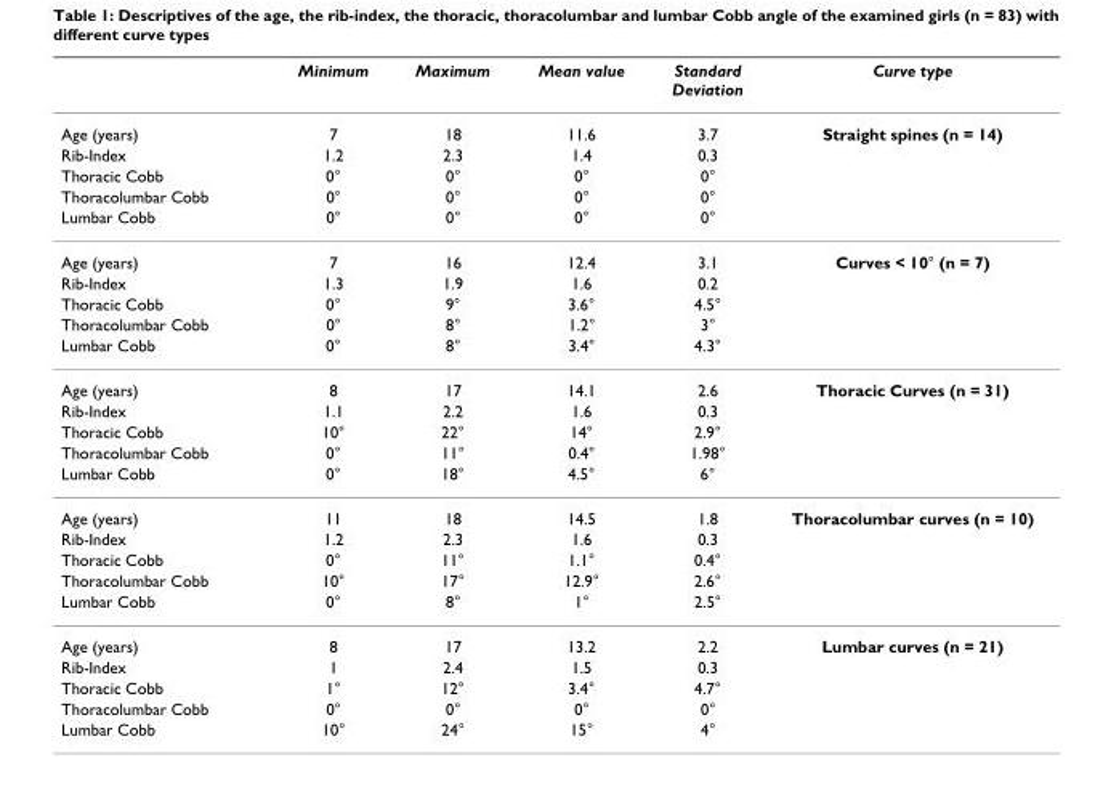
<table><thead><tr><td></td><td>Minimum</td><td>Maximum</td><td>Mean value</td><td>Standard Deviation</td><td>Curve type</td></tr></thead><tbody><tr><td>Age (years)</td><td>7</td><td>18</td><td>11.6</td><td>3.7</td><td>Straight spines (n = 14)</td></tr><tr><td>Rib-Index</td><td>1.2</td><td>2.3</td><td>1.4</td><td>0.3</td><td></td></tr><tr><td>Thoracic Cobb</td><td>0°</td><td>0°</td><td>0°</td><td>0°</td><td></td></tr><tr><td>Thoracolumbar Cobb</td><td>0°</td><td>0°</td><td>0°</td><td>0°</td><td></td></tr><tr><td>Lumbar Cobb</td><td>0°</td><td>0°</td><td>0°</td><td>0°</td><td></td></tr><tr><td>Age (years)</td><td>7</td><td>16</td><td>12.4</td><td>3.1</td><td>Curves &lt; 10° (n = 7)</td></tr><tr><td>Rib-Index</td><td>1.3</td><td>1.9</td><td>1.6</td><td>0.2</td><td></td></tr><tr><td>Thoracic Cobb</td><td>0°</td><td>9°</td><td>3.6°</td><td>4.5°</td><td></td></tr><tr><td>Thoracolumbar Cobb</td><td>0°</td><td>8°</td><td>1.2°</td><td>3°</td><td></td></tr><tr><td>Lumbar Cobb</td><td>0°</td><td>8°</td><td>3.4°</td><td>4.3°</td><td></td></tr><tr><td>Age (years)</td><td>8</td><td>17</td><td>14.1</td><td>2.6</td><td>Thoracic Curves (n = 31)</td></tr><tr><td>Rib-Index</td><td>1.1</td><td>2.2</td><td>1.6</td><td>0.3</td><td></td></tr><tr><td>Thoracic Cobb</td><td>10°</td><td>22°</td><td>14°</td><td>2.9°</td><td></td></tr><tr><td>Thoracolumbar Cobb</td><td>0°</td><td>11°</td><td>0.4°</td><td>1.98°</td><td></td></tr><tr><td>Lumbar Cobb</td><td>0°</td><td>18°</td><td>4.5°</td><td>6°</td><td></td></tr><tr><td>Age (years)</td><td>11</td><td>18</td><td>14.5</td><td>1.8</td><td>Thoracolumbar curves (n = 10)</td></tr><tr><td>Rib-Index</td><td>1.2</td><td>2.3</td><td>1.6</td><td>0.3</td><td></td></tr><tr><td>Thoracic Cobb</td><td>0°</td><td>11°</td><td>1.1°</td><td>0.4°</td><td></td></tr><tr><td>Thoracolumbar Cobb</td><td>10°</td><td>17°</td><td>12.9°</td><td>2.6°</td><td></td></tr><tr><td>Lumbar Cobb</td><td>0°</td><td>8°</td><td>1°</td><td>2.5°</td><td></td></tr><tr><td>Age (years)</td><td>8</td><td>17</td><td>13.2</td><td>2.2</td><td>Lumbar curves (n = 21)</td></tr><tr><td>Rib-Index</td><td>1</td><td>2.4</td><td>1.5</td><td>0.3</td><td></td></tr><tr><td>Thoracic Cobb</td><td>1°</td><td>12°</td><td>3.4°</td><td>4.7°</td><td></td></tr><tr><td>Thoracolumbar Cobb</td><td>0°</td><td>0°</td><td>0°</td><td>0°</td><td></td></tr><tr><td>Lumbar Cobb</td><td>10°</td><td>24°</td><td>15°</td><td>4°</td><td></td></tr></tbody></table>